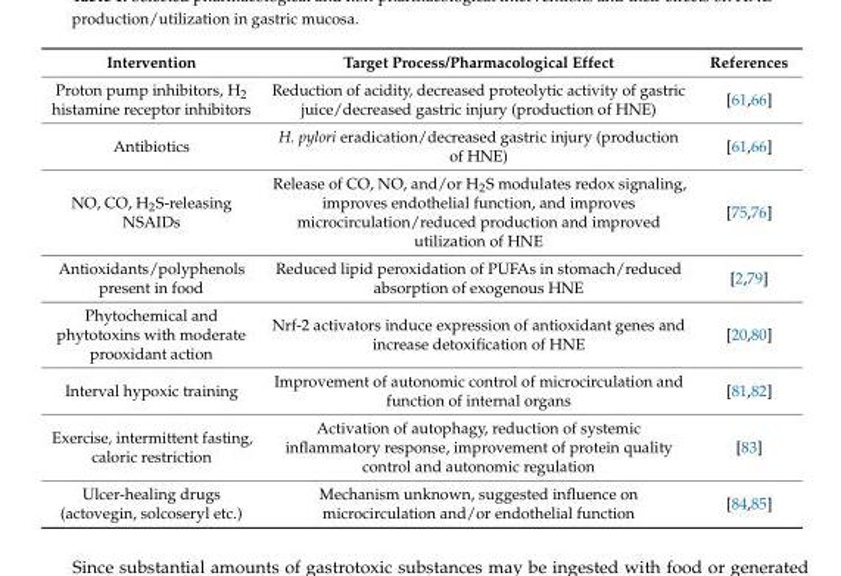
<table><thead><tr><td>Intervention</td><td>Target Process/Pharmacological Effect</td><td>References</td></tr></thead><tbody><tr><td>Proton pump inhibitors, H<sub>2</sub> histamine receptor inhibitors</td><td>Reduction of acidity, decreased proteolytic activity of gastric juice/decreased gastric injury (production of HNE)</td><td>[61,66]</td></tr><tr><td>Antibiotics</td><td>H. pylori eradication/decreased gastric injury (production of HNE)</td><td>[61,66]</td></tr><tr><td>NO, CO, H<sub>2</sub>S-releasing NSAIDs</td><td>Release of CO, NO, and/or H<sub>2</sub>S modulates redox signaling, improves endothelial function, and improves microcirculation/reduced production and improved utilization of HNE</td><td>[75,76]</td></tr><tr><td>Antioxidants/polyphenols present in food</td><td>Reduced lipid peroxidation of PUFAs in stomach/reduced absorption of exogenous HNE</td><td>[2,79]</td></tr><tr><td>Phytochemical and phytotoxins with moderate prooxidant action</td><td>Nrf-2 activators induce expression of antioxidant genes and increase detoxification of HNE</td><td>[20,80]</td></tr><tr><td>Interval hypoxic training</td><td>Improvement of autonomic control of microcirculation and function of internal organs</td><td>[81,82]</td></tr><tr><td>Exercise, intermittent fasting, caloric restriction</td><td>Activation of autophagy, reduction of systemic inflammatory response, improvement of protein quality control and autonomic regulation</td><td>[83]</td></tr><tr><td>Ulcer-healing drugs (actovegin, solcoseryl etc.)</td><td>Mechanism unknown, suggested influence on microcirculation and/or endothelial function</td><td>[84,85]</td></tr></tbody></table>